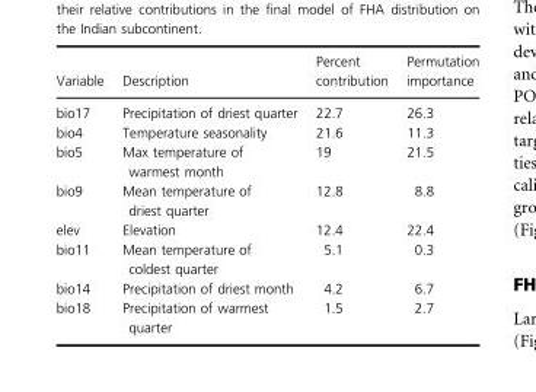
<table><thead><tr><td>Variable</td><td>Description</td><td>Percent contribution</td><td>Permutation importance</td></tr></thead><tbody><tr><td>bio17</td><td>Precipitation of driest quarter</td><td>22.7</td><td>26.3</td></tr><tr><td>bio4</td><td>Temperature seasonality</td><td>21.6</td><td>11.3</td></tr><tr><td>bio5</td><td>Max temperature of warmest month</td><td>19</td><td>21.5</td></tr><tr><td>bio9</td><td>Mean temperature of driest quarter</td><td>12.8</td><td>8.8</td></tr><tr><td>elev</td><td>Elevation</td><td>12.4</td><td>22.4</td></tr><tr><td>bio11</td><td>Mean temperature of coldest quarter</td><td>5.1</td><td>0.3</td></tr><tr><td>bio14</td><td>Precipitation of driest month</td><td>4.2</td><td>6.7</td></tr><tr><td>bio18</td><td>Precipitation of warmest quarter</td><td>1.5</td><td>2.7</td></tr></tbody></table>